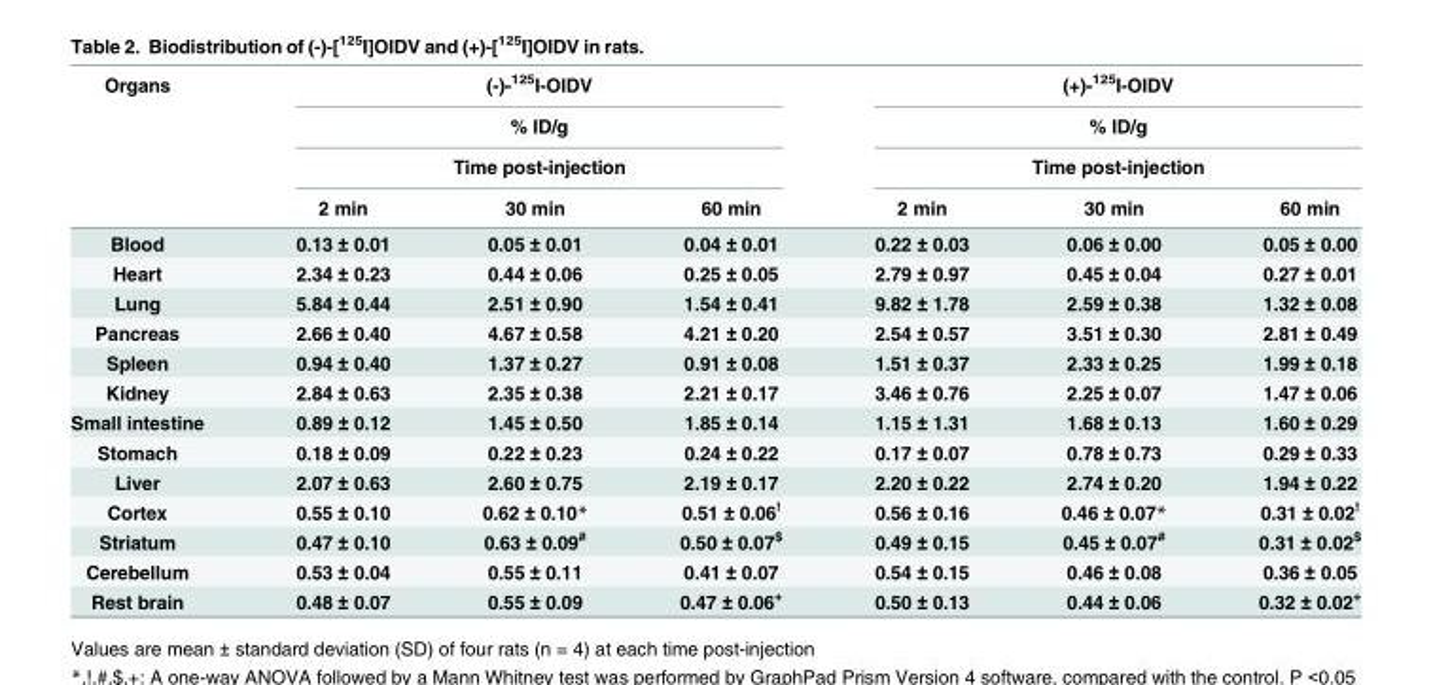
<table><thead><tr><td rowspan="4">Organs</td><td rowspan="3" colspan="3">(-)-<sup>125</sup>I-OIDV % ID/g Time post-injection</td><td rowspan="3" colspan="3">(+)-<sup>125</sup>I-OIDV % ID/g Time post-injection</td></tr><tr></tr><tr></tr><tr><td>2 min</td><td>30 min</td><td>60 min</td><td>2 min</td><td>30 min</td><td>60 min</td></tr></thead><tbody><tr><td>Blood</td><td>0.13 ± 0.01</td><td>0.05 ± 0.01</td><td>0.04 ± 0.01</td><td>0.22 ± 0.03</td><td>0.06 ± 0.00</td><td>0.05 ± 0.00</td></tr><tr><td>Heart</td><td>2.34 ± 0.23</td><td>0.44 ± 0.06</td><td>0.25 ± 0.05</td><td>2.79 ± 0.97</td><td>0.45 ± 0.04</td><td>0.27 ± 0.01</td></tr><tr><td>Lung</td><td>5.84 ± 0.44</td><td>2.51 ± 0.90</td><td>1.54 ± 0.41</td><td>9.82 ± 1.78</td><td>2.59 ± 0.38</td><td>1.32 ± 0.08</td></tr><tr><td>Pancreas</td><td>2.66 ± 0.40</td><td>4.67 ± 0.58</td><td>4.21 ± 0.20</td><td>2.54 ± 0.57</td><td>3.51 ± 0.30</td><td>2.81 ± 0.49</td></tr><tr><td>Spleen</td><td>0.94 ± 0.40</td><td>1.37 ± 0.27</td><td>0.91 ± 0.08</td><td>1.51 ± 0.37</td><td>2.33 ± 0.25</td><td>1.99 ± 0.18</td></tr><tr><td>Kidney</td><td>2.84 ± 0.63</td><td>2.35 ± 0.38</td><td>2.21 ± 0.17</td><td>3.46 ± 0.76</td><td>2.25 ± 0.07</td><td>1.47 ± 0.06</td></tr><tr><td>Small intestine</td><td>0.89 ± 0.12</td><td>1.45 ± 0.50</td><td>1.85 ± 0.14</td><td>1.15 ± 1.31</td><td>1.68 ± 0.13</td><td>1.60 ± 0.29</td></tr><tr><td>Stomach</td><td>0.18 ± 0.09</td><td>0.22 ± 0.23</td><td>0.24 ± 0.22</td><td>0.17 ± 0.07</td><td>0.78 ± 0.73</td><td>0.29 ± 0.33</td></tr><tr><td>Liver</td><td>2.07 ± 0.63</td><td>2.60 ± 0.75</td><td>2.19 ± 0.17</td><td>2.20 ± 0.22</td><td>2.74 ± 0.20</td><td>1.94 ± 0.22</td></tr><tr><td>Cortex</td><td>0.55 ± 0.10</td><td>0.62 ± 0.10*</td><td>0.51 ± 0.06<sup>!</sup></td><td>0.56 ± 0.16</td><td>0.46 ± 0.07*</td><td>0.31 ± 0.02<sup>!</sup></td></tr><tr><td>Striatum</td><td>0.47 ± 0.10</td><td>0.63 ± 0.09<sup>#</sup></td><td>0.50 ± 0.07<sup>$</sup></td><td>0.49 ± 0.15</td><td>0.45 ± 0.07<sup>#</sup></td><td>0.31 ± 0.02<sup>$</sup></td></tr><tr><td>Cerebellum</td><td>0.53 ± 0.04</td><td>0.55 ± 0.11</td><td>0.41 ± 0.07</td><td>0.54 ± 0.15</td><td>0.46 ± 0.08</td><td>0.36 ± 0.05</td></tr><tr><td>Rest brain</td><td>0.48 ± 0.07</td><td>0.55 ± 0.09</td><td>0.47 ± 0.06<sup>+</sup></td><td>0.50 ± 0.13</td><td>0.44 ± 0.06</td><td>0.32 ± 0.02<sup>+</sup></td></tr></tbody></table>